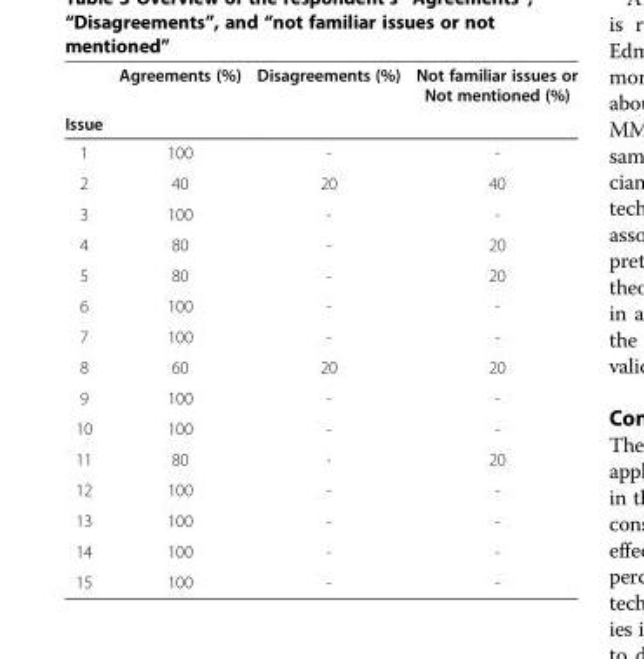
<table><thead><tr><td rowspan="2">Issue</td><td rowspan="2">Agreements (%)</td><td rowspan="2">Disagreements (%)</td><td rowspan="2">Not familiar issues or Not mentioned (%)</td></tr><tr></tr></thead><tbody><tr><td>1</td><td>100</td><td>-</td><td>-</td></tr><tr><td>2</td><td>40</td><td>20</td><td>40</td></tr><tr><td>3</td><td>100</td><td>-</td><td>-</td></tr><tr><td>4</td><td>80</td><td>-</td><td>20</td></tr><tr><td>5</td><td>80</td><td>-</td><td>20</td></tr><tr><td>6</td><td>100</td><td>-</td><td>-</td></tr><tr><td>7</td><td>100</td><td>-</td><td>-</td></tr><tr><td>8</td><td>60</td><td>20</td><td>20</td></tr><tr><td>9</td><td>100</td><td>-</td><td>-</td></tr><tr><td>10</td><td>100</td><td>-</td><td>-</td></tr><tr><td>11</td><td>80</td><td>-</td><td>20</td></tr><tr><td>12</td><td>100</td><td>-</td><td>-</td></tr><tr><td>13</td><td>100</td><td>-</td><td>-</td></tr><tr><td>14</td><td>100</td><td>-</td><td>-</td></tr><tr><td>15</td><td>100</td><td>-</td><td>-</td></tr></tbody></table>